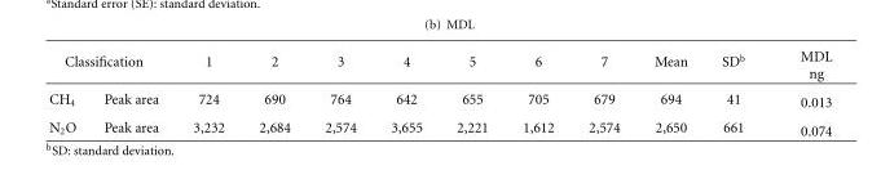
<table><thead><tr><td colspan="2">Classification</td><td rowspan="2">1 724</td><td rowspan="2">2 690</td><td rowspan="2">3 764</td><td rowspan="2">4 642</td><td rowspan="2">5 655</td><td rowspan="2">6 705</td><td rowspan="2">7 679</td><td rowspan="2">Mean 694</td><td rowspan="2">SD<sup>b</sup> 41</td><td rowspan="2">MDL ng 0.013</td></tr><tr><td>CH<sub>4</sub></td><td>Peak area</td></tr></thead><tbody><tr><td>N<sub>2</sub>O</td><td>Peak area</td><td>3,232</td><td>2,684</td><td>2,574</td><td>3,655</td><td>2,221</td><td>1,612</td><td>2,574</td><td>2,650</td><td>661</td><td>0.074</td></tr></tbody></table>